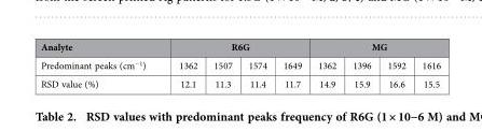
<table><thead><tr><td rowspan="2">Analyte Predominant peaks (cm<sup>−1</sup>)</td><td colspan="4">R6G</td><td colspan="4">MG</td></tr><tr><td>1362</td><td>1507</td><td>1574</td><td>1649</td><td>1362</td><td>1396</td><td>1592</td><td>1616</td></tr></thead><tbody><tr><td>RSD value (%)</td><td>12.1</td><td>11.3</td><td>11.4</td><td>11.7</td><td>14.9</td><td>15.9</td><td>16.6</td><td>15.5</td></tr></tbody></table>